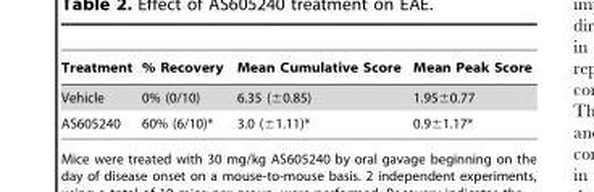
<table><thead><tr><td>Treatment</td><td>% Recovery</td><td>Mean Cumulative Score</td><td>Mean Peak Score</td></tr></thead><tbody><tr><td>Vehicle</td><td>0% (0/10)</td><td>6.35 (±0.85)</td><td>1.95±0.77</td></tr><tr><td>AS605240</td><td>60% (6/10)*</td><td>3.0 (±1.11)*</td><td>0.9±1.17*</td></tr></tbody></table>